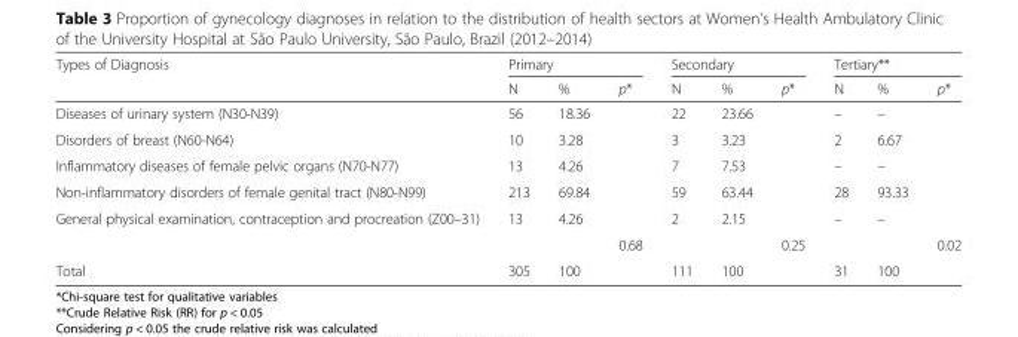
<table><thead><tr><td rowspan="2">Types of Diagnosis</td><td colspan="3">Primary</td><td colspan="3">Secondary</td><td colspan="3">Tertiary**</td></tr><tr><td>N</td><td>%</td><td>p*</td><td>N</td><td>%</td><td>p*</td><td>N</td><td>%</td><td>p*</td></tr></thead><tbody><tr><td>Diseases of urinary system (N30-N39)</td><td>56</td><td>18.36</td><td></td><td>22</td><td>23.66</td><td></td><td>–</td><td>–</td><td></td></tr><tr><td>Disorders of breast (N60-N64)</td><td>10</td><td>3.28</td><td></td><td>3</td><td>3.23</td><td></td><td>2</td><td>6.67</td><td></td></tr><tr><td>Inflammatory diseases of female pelvic organs (N70-N77)</td><td>13</td><td>4.26</td><td></td><td>7</td><td>7.53</td><td></td><td>–</td><td>–</td><td></td></tr><tr><td>Non-inflammatory disorders of female genital tract (N80-N99)</td><td>213</td><td>69.84</td><td></td><td>59</td><td>63.44</td><td></td><td>28</td><td>93.33</td><td></td></tr><tr><td rowspan="2">General physical examination, contraception and procreation (Z00–31)</td><td>13</td><td>4.26</td><td></td><td>2</td><td>2.15</td><td></td><td>–</td><td>–</td><td></td></tr><tr><td></td><td></td><td>0.68</td><td></td><td></td><td>0.25</td><td></td><td></td><td>0.02</td></tr><tr><td>Total</td><td>305</td><td>100</td><td></td><td>111</td><td>100</td><td></td><td>31</td><td>100</td><td></td></tr></tbody></table>